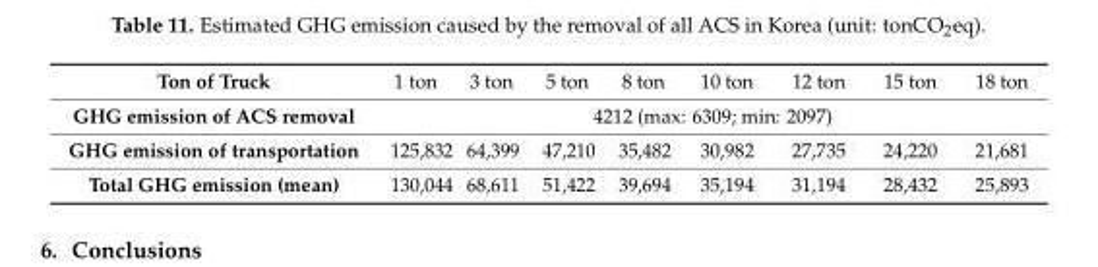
<table><tbody><tr><td>Ton of Truck</td><td>1 ton</td><td>3 ton</td><td>5 ton</td><td>8 ton</td><td>10 ton</td><td>12 ton</td><td>15 ton</td><td>18 ton</td></tr><tr><td>GHG emission of ACS removal</td><td colspan="8">4212 (max: 6309; min: 2097)</td></tr><tr><td>GHG emission of transportation</td><td>125,832</td><td>64,399</td><td>47,210</td><td>35,482</td><td>30,982</td><td>27,735</td><td>24,220</td><td>21,681</td></tr><tr><td>Total GHG emission (mean)</td><td>130,044</td><td>68,611</td><td>51,422</td><td>39,694</td><td>35,194</td><td>31,194</td><td>28,432</td><td>25,893</td></tr></tbody></table>